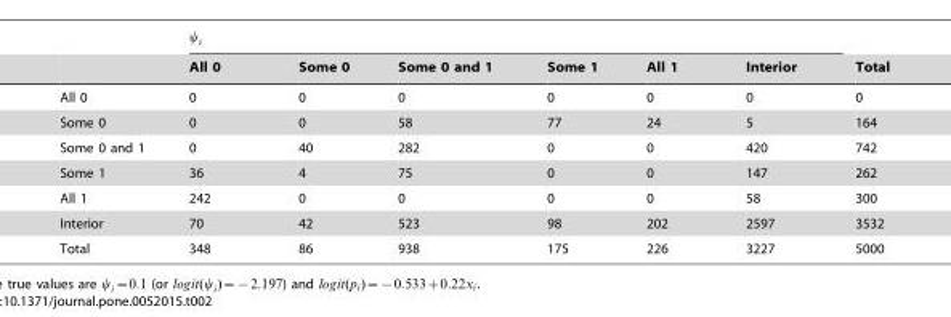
<table><thead><tr><td></td><td>All 0</td><td>Some 0</td><td>Some 0 and 1</td><td>Some 1</td><td>All 1</td><td>Interior</td><td>Total</td></tr></thead><tbody><tr><td>All 0</td><td>0</td><td>0</td><td>0</td><td>0</td><td>0</td><td>0</td><td>0</td></tr><tr><td>Some 0</td><td>0</td><td>0</td><td>58</td><td>77</td><td>24</td><td>5</td><td>164</td></tr><tr><td>Some 0 and 1</td><td>0</td><td>40</td><td>282</td><td>0</td><td>0</td><td>420</td><td>742</td></tr><tr><td>Some 1</td><td>36</td><td>4</td><td>75</td><td>0</td><td>0</td><td>147</td><td>262</td></tr><tr><td>All 1</td><td>242</td><td>0</td><td>0</td><td>0</td><td>0</td><td>58</td><td>300</td></tr><tr><td>Interior</td><td>70</td><td>42</td><td>523</td><td>98</td><td>202</td><td>2597</td><td>3532</td></tr><tr><td>Total</td><td>348</td><td>86</td><td>938</td><td>175</td><td>226</td><td>3227</td><td>5000</td></tr></tbody></table>